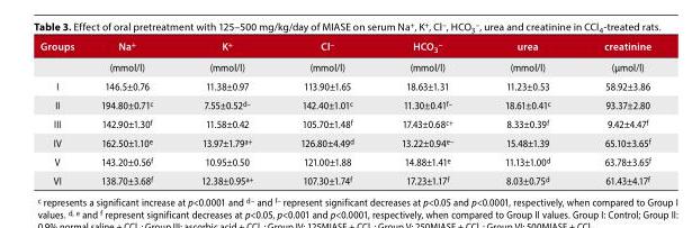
<table><thead><tr><td>Groups</td><td>Na<sup>+</sup></td><td>K<sup>+</sup></td><td>Cl<sup>–</sup></td><td>HCO<sub>3</sub><sup>–</sup></td><td>urea</td><td>creatinine</td></tr></thead><tbody><tr><td></td><td>(mmol/l)</td><td>(mmol/l)</td><td>(mmol/l)</td><td>(mmol/l)</td><td>(mmol/l)</td><td>(μmol/l)</td></tr><tr><td>I</td><td>146.5±0.76</td><td>11.38±0.97</td><td>113.90±1.65</td><td>18.63±1.31</td><td>11.23±0.53</td><td>58.92±3.86</td></tr><tr><td>II</td><td>194.80±0.71<sup>c</sup></td><td>7.55±0.52<sup>d–</sup></td><td>142.40±1.01<sup>c</sup></td><td>11.30±0.41<sup>f–</sup></td><td>18.61±0.41<sup>c</sup></td><td>93.37±2.80</td></tr><tr><td>III</td><td>142.90±1.30<sup>f</sup></td><td>11.58±0.42</td><td>105.70±1.48<sup>f</sup></td><td>17.43±0.68<sup>c+</sup></td><td>8.33±0.39<sup>f</sup></td><td>9.42±4.47<sup>f</sup></td></tr><tr><td>IV</td><td>162.50±1.10<sup>e</sup></td><td>13.97±1.79<sup>a+</sup></td><td>126.80±4.49<sup>d</sup></td><td>13.22±0.94<sup>e–</sup></td><td>15.48±1.39</td><td>65.10±3.65<sup>f</sup></td></tr><tr><td>V</td><td>143.20±0.56<sup>f</sup></td><td>10.95±0.50</td><td>121.00±1.88</td><td>14.88±1.41<sup>e</sup></td><td>11.13±1.00<sup>d</sup></td><td>63.78±3.65<sup>f</sup></td></tr><tr><td>VI</td><td>138.70±3.68<sup>f</sup></td><td>12.38±0.95<sup>a+</sup></td><td>107.30±1.74<sup>f</sup></td><td>17.23±1.17<sup>f</sup></td><td>8.03±0.75<sup>d</sup></td><td>61.43±4.17<sup>f</sup></td></tr></tbody></table>